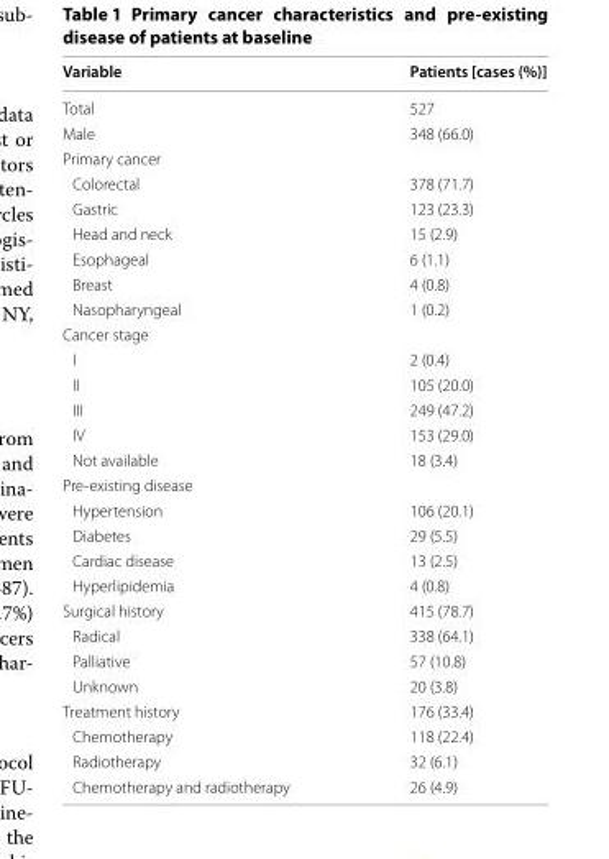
<table><thead><tr><td>Variable</td><td>Patients [cases (%)]</td></tr></thead><tbody><tr><td>Total</td><td>527</td></tr><tr><td>Male</td><td>348 (66.0)</td></tr><tr><td colspan="2">Primary cancer</td></tr><tr><td>Colorectal</td><td>378 (71.7)</td></tr><tr><td>Gastric</td><td>123 (23.3)</td></tr><tr><td>Head and neck</td><td>15 (2.9)</td></tr><tr><td>Esophageal</td><td>6 (1.1)</td></tr><tr><td>Breast</td><td>4 (0.8)</td></tr><tr><td>Nasopharyngeal</td><td>1 (0.2)</td></tr><tr><td colspan="2">Cancer stage</td></tr><tr><td>I</td><td>2 (0.4)</td></tr><tr><td>II</td><td>105 (20.0)</td></tr><tr><td>III</td><td>249 (47.2)</td></tr><tr><td>IV</td><td>153 (29.0)</td></tr><tr><td>Not available</td><td>18 (3.4)</td></tr><tr><td colspan="2">Pre-existing disease</td></tr><tr><td>Hypertension</td><td>106 (20.1)</td></tr><tr><td>Diabetes</td><td>29 (5.5)</td></tr><tr><td>Cardiac disease</td><td>13 (2.5)</td></tr><tr><td>Hyperlipidemia</td><td>4 (0.8)</td></tr><tr><td>Surgical history</td><td>415 (78.7)</td></tr><tr><td>Radical</td><td>338 (64.1)</td></tr><tr><td>Palliative</td><td>57 (10.8)</td></tr><tr><td>Unknown</td><td>20 (3.8)</td></tr><tr><td>Treatment history</td><td>176 (33.4)</td></tr><tr><td>Chemotherapy</td><td>118 (22.4)</td></tr><tr><td>Radiotherapy</td><td>32 (6.1)</td></tr><tr><td>Chemotherapy and radiotherapy</td><td>26 (4.9)</td></tr></tbody></table>